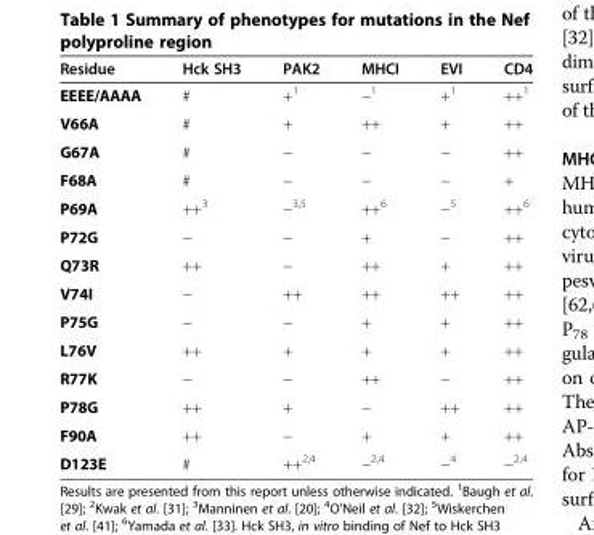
<table><thead><tr><td>Residue</td><td>Hck SH3</td><td>PAK2</td><td>MHCI</td><td>EVI</td><td>CD4</td></tr></thead><tbody><tr><td>EEEE/AAAA</td><td>#</td><td>+<sup>1</sup></td><td>−<sup>1</sup></td><td>+<sup>1</sup></td><td>++<sup>1</sup></td></tr><tr><td>V66A</td><td>#</td><td>+</td><td>++</td><td>+</td><td>++</td></tr><tr><td>G67A</td><td>#</td><td>−</td><td>−</td><td>−</td><td>++</td></tr><tr><td>F68A</td><td>#</td><td>−</td><td>−</td><td>−</td><td>+</td></tr><tr><td>P69A</td><td>++<sup>3</sup></td><td>−<sup>3,5</sup></td><td>++<sup>6</sup></td><td>−<sup>5</sup></td><td>++<sup>6</sup></td></tr><tr><td>P72G</td><td>−</td><td>−</td><td>+</td><td>−</td><td>++</td></tr><tr><td>Q73R</td><td>++</td><td>−</td><td>++</td><td>+</td><td>++</td></tr><tr><td>V74I</td><td>−</td><td>++</td><td>++</td><td>++</td><td>++</td></tr><tr><td>P75G</td><td>−</td><td>−</td><td>+</td><td>+</td><td>++</td></tr><tr><td>L76V</td><td>++</td><td>+</td><td>+</td><td>+</td><td>++</td></tr><tr><td>R77K</td><td>−</td><td>−</td><td>++</td><td>−</td><td>++</td></tr><tr><td>P78G</td><td>++</td><td>+</td><td>−</td><td>++</td><td>++</td></tr><tr><td>F90A</td><td>++</td><td>−</td><td>+</td><td>+</td><td>++</td></tr><tr><td>D123E</td><td>#</td><td>++<sup>2,4</sup></td><td>−<sup>2,4</sup></td><td>−<sup>4</sup></td><td>−<sup>2,4</sup></td></tr></tbody></table>